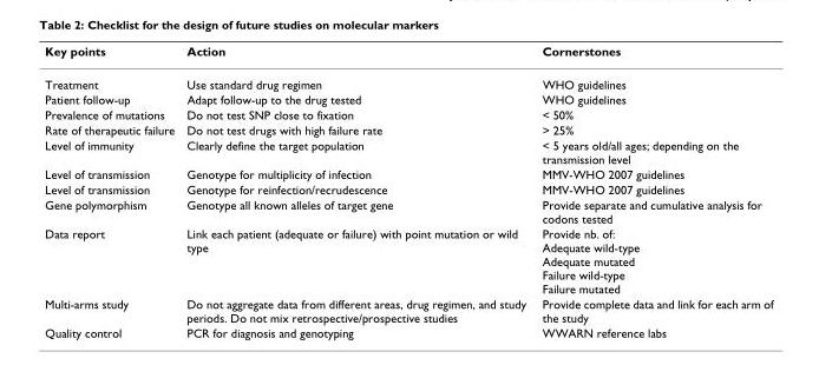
<table><thead><tr><td>Key points</td><td>Action</td><td>Cornerstones</td></tr></thead><tbody><tr><td>Treatment</td><td>Use standard drug regimen</td><td>WHO guidelines</td></tr><tr><td>Patient follow-up</td><td>Adapt follow-up to the drug tested</td><td>WHO guidelines</td></tr><tr><td>Prevalence of mutations</td><td>Do not test SNP close to fixation</td><td>&lt; 50%</td></tr><tr><td>Rate of therapeutic failure</td><td>Do not test drugs with high failure rate</td><td>&gt; 25%</td></tr><tr><td>Level of immunity</td><td>Clearly define the target population</td><td>&lt; 5 years old/all ages; depending on the transmission level</td></tr><tr><td>Level of transmission</td><td>Genotype for multiplicity of infection</td><td>MMV-WHO 2007 guidelines</td></tr><tr><td>Level of transmission</td><td>Genotype for reinfection/recrudescence</td><td>MMV-WHO 2007 guidelines</td></tr><tr><td>Gene polymorphism</td><td>Genotype all known alleles of target gene</td><td>Provide separate and cumulative analysis for codons tested</td></tr><tr><td>Data report</td><td>Link each patient (adequate or failure) with point mutation or wild type</td><td>Provide nb. of: Adequate wild-type Adequate mutated Failure wild-type Failure mutated</td></tr><tr><td>Multi-arms study</td><td>Do not aggregate data from different areas, drug regimen, and study periods. Do not mix retrospective/prospective studies</td><td>Provide complete data and link for each arm of the study</td></tr><tr><td>Quality control</td><td>PCR for diagnosis and genotyping</td><td>WWARN reference labs</td></tr></tbody></table>